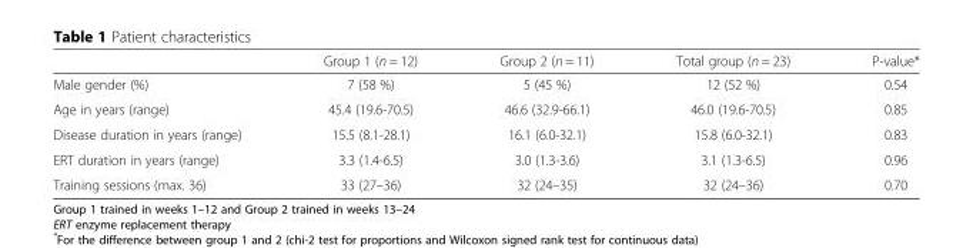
<table><thead><tr><td></td><td>Group 1 (n = 12)</td><td>Group 2 (n = 11)</td><td>Total group (n = 23)</td><td>P-value*</td></tr></thead><tbody><tr><td>Male gender (%)</td><td>7 (58 %)</td><td>5 (45 %)</td><td>12 (52 %)</td><td>0.54</td></tr><tr><td>Age in years (range)</td><td>45.4 (19.6-70.5)</td><td>46.6 (32.9-66.1)</td><td>46.0 (19.6-70.5)</td><td>0.85</td></tr><tr><td>Disease duration in years (range)</td><td>15.5 (8.1-28.1)</td><td>16.1 (6.0-32.1)</td><td>15.8 (6.0-32.1)</td><td>0.83</td></tr><tr><td>ERT duration in years (range)</td><td>3.3 (1.4-6.5)</td><td>3.0 (1.3-3.6)</td><td>3.1 (1.3-6.5)</td><td>0.96</td></tr><tr><td>Training sessions (max. 36)</td><td>33 (27–36)</td><td>32 (24–35)</td><td>32 (24–36)</td><td>0.70</td></tr></tbody></table>